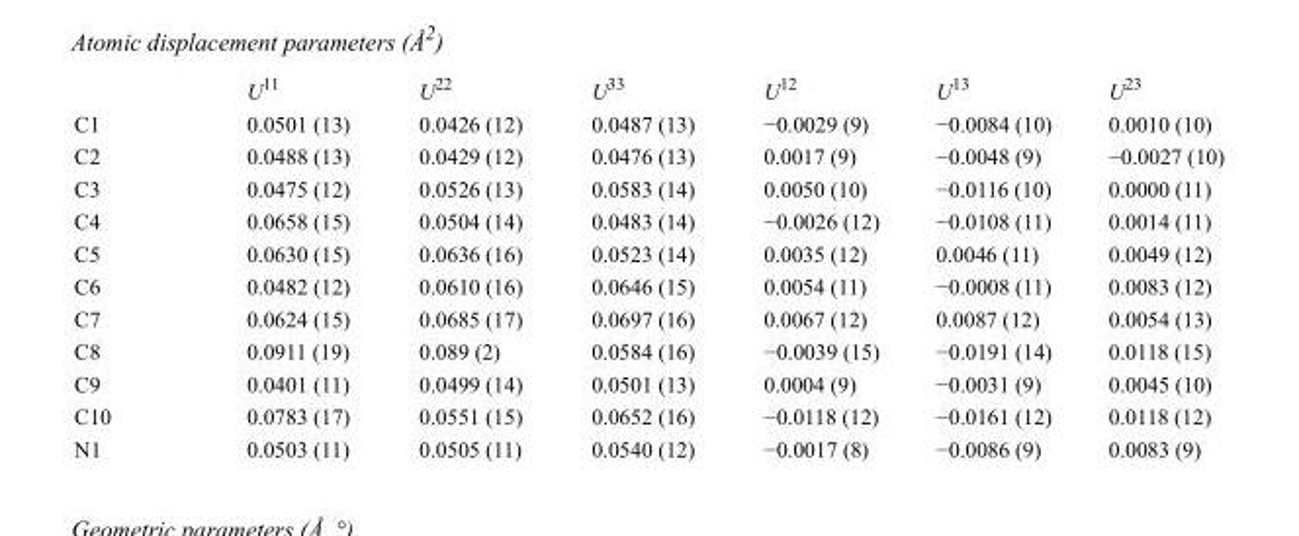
<table><thead><tr><td></td><td>U<sup>11</sup></td><td>U<sup>22</sup></td><td>U<sup>33</sup></td><td>U<sup>12</sup></td><td>U<sup>13</sup></td><td>U<sup>23</sup></td></tr></thead><tbody><tr><td>C1</td><td>0.0501 (13)</td><td>0.0426 (12)</td><td>0.0487 (13)</td><td>−0.0029 (9)</td><td>−0.0084 (10)</td><td>0.0010 (10)</td></tr><tr><td>C2</td><td>0.0488 (13)</td><td>0.0429 (12)</td><td>0.0476 (13)</td><td>0.0017 (9)</td><td>−0.0048 (9)</td><td>−0.0027 (10)</td></tr><tr><td>C3</td><td>0.0475 (12)</td><td>0.0526 (13)</td><td>0.0583 (14)</td><td>0.0050 (10)</td><td>−0.0116 (10)</td><td>0.0000 (11)</td></tr><tr><td>C4</td><td>0.0658 (15)</td><td>0.0504 (14)</td><td>0.0483 (14)</td><td>−0.0026 (12)</td><td>−0.0108 (11)</td><td>0.0014 (11)</td></tr><tr><td>C5</td><td>0.0630 (15)</td><td>0.0636 (16)</td><td>0.0523 (14)</td><td>0.0035 (12)</td><td>0.0046 (11)</td><td>0.0049 (12)</td></tr><tr><td>C6</td><td>0.0482 (12)</td><td>0.0610 (16)</td><td>0.0646 (15)</td><td>0.0054 (11)</td><td>−0.0008 (11)</td><td>0.0083 (12)</td></tr><tr><td>C7</td><td>0.0624 (15)</td><td>0.0685 (17)</td><td>0.0697 (16)</td><td>0.0067 (12)</td><td>0.0087 (12)</td><td>0.0054 (13)</td></tr><tr><td>C8</td><td>0.0911 (19)</td><td>0.089 (2)</td><td>0.0584 (16)</td><td>−0.0039 (15)</td><td>−0.0191 (14)</td><td>0.0118 (15)</td></tr><tr><td>C9</td><td>0.0401 (11)</td><td>0.0499 (14)</td><td>0.0501 (13)</td><td>0.0004 (9)</td><td>−0.0031 (9)</td><td>0.0045 (10)</td></tr><tr><td>C10</td><td>0.0783 (17)</td><td>0.0551 (15)</td><td>0.0652 (16)</td><td>−0.0118 (12)</td><td>−0.0161 (12)</td><td>0.0118 (12)</td></tr><tr><td>N1</td><td>0.0503 (11)</td><td>0.0505 (11)</td><td>0.0540 (12)</td><td>−0.0017 (8)</td><td>−0.0086 (9)</td><td>0.0083 (9)</td></tr></tbody></table>